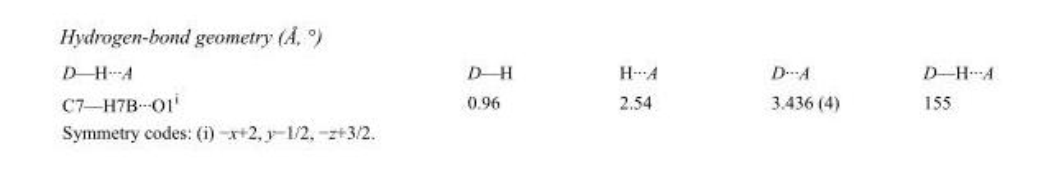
<table><tbody><tr><td>D—H···A</td><td>D—H</td><td>H···A</td><td>D···A</td><td>D—H···A</td></tr><tr><td>C7—H7B···O1<sup>i</sup></td><td>0.96</td><td>2.54</td><td>3.436 (4)</td><td>155</td></tr></tbody></table>